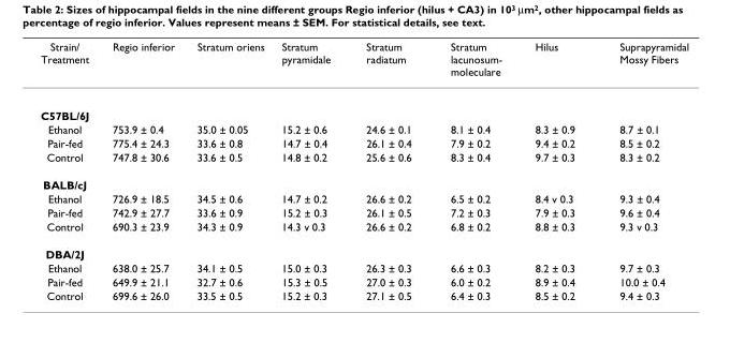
<table><thead><tr><td>Strain/ Treatment</td><td>Regio inferior</td><td>Stratum oriens</td><td>Stratum pyramidale</td><td>Stratum radiatum</td><td>Stratum lacunosum- moleculare</td><td>Hilus</td><td>Suprapyramidal Mossy Fibers</td></tr></thead><tbody><tr><td colspan="8">C57BL/6J</td></tr><tr><td>Ethanol</td><td>753.9 ± 0.4</td><td>35.0 ± 0.05</td><td>15.2 ± 0.6</td><td>24.6 ± 0.1</td><td>8.1 ± 0.4</td><td>8.3 ± 0.9</td><td>8.7 ± 0.1</td></tr><tr><td>Pair-fed</td><td>775.4 ± 24.3</td><td>33.6 ± 0.8</td><td>14.7 ± 0.4</td><td>26.1 ± 0.4</td><td>7.9 ± 0.2</td><td>9.4 ± 0.2</td><td>8.5 ± 0.2</td></tr><tr><td>Control</td><td>747.8 ± 30.6</td><td>33.6 ± 0.5</td><td>14.8 ± 0.2</td><td>25.6 ± 0.6</td><td>8.3 ± 0.4</td><td>9.7 ± 0.3</td><td>8.3 ± 0.2</td></tr><tr><td colspan="8">BALB/cJ</td></tr><tr><td>Ethanol</td><td>726.9 ± 18.5</td><td>34.5 ± 0.6</td><td>14.7 ± 0.2</td><td>26.6 ± 0.2</td><td>6.5 ± 0.2</td><td>8.4 v 0.3</td><td>9.3 ± 0.4</td></tr><tr><td>Pair-fed</td><td>742.9 ± 27.7</td><td>33.6 ± 0.9</td><td>15.2 ± 0.3</td><td>26.1 ± 0.5</td><td>7.2 ± 0.3</td><td>7.9 ± 0.3</td><td>9.6 ± 0.4</td></tr><tr><td>Control</td><td>690.3 ± 23.9</td><td>34.3 ± 0.9</td><td>14.3 v 0.3</td><td>26.6 ± 0.2</td><td>6.8 ± 0.2</td><td>8.8 ± 0.3</td><td>9.3 v 0.3</td></tr><tr><td colspan="8">DBA/2J</td></tr><tr><td>Ethanol</td><td>638.0 ± 25.7</td><td>34.1 ± 0.5</td><td>15.0 ± 0.3</td><td>26.3 ± 0.3</td><td>6.6 ± 0.3</td><td>8.2 ± 0.3</td><td>9.7 ± 0.3</td></tr><tr><td>Pair-fed</td><td>649.9 ± 21.1</td><td>32.7 ± 0.6</td><td>15.3 ± 0.5</td><td>27.0 ± 0.3</td><td>6.0 ± 0.2</td><td>8.9 ± 0.4</td><td>10.0 ± 0.4</td></tr><tr><td>Control</td><td>699.6 ± 26.0</td><td>33.5 ± 0.5</td><td>15.2 ± 0.3</td><td>27.1 ± 0.5</td><td>6.4 ± 0.3</td><td>8.5 ± 0.2</td><td>9.4 ± 0.3</td></tr></tbody></table>